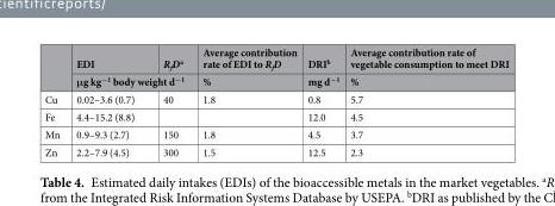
<table><thead><tr><td rowspan="2"></td><td>EDI</td><td>R<sub>f</sub>D<sup>a</sup></td><td rowspan="2">Average contribution rate of EDI to R<sub>f</sub>D %</td><td rowspan="2">DRI<sup>b</sup> mg d<sup>−1</sup></td><td rowspan="2">Average contribution rate of vegetable consumption to meet DRI %</td></tr><tr><td colspan="2">μg kg<sup>−1</sup> body weight d<sup>−1</sup></td></tr></thead><tbody><tr><td>Cu</td><td>0.02–3.6 (0.7)</td><td>40</td><td>1.8</td><td>0.8</td><td>5.7</td></tr><tr><td>Fe</td><td>4.4–15.2 (8.8)</td><td></td><td></td><td>12.0</td><td>4.5</td></tr><tr><td>Mn</td><td>0.9–9.3 (2.7)</td><td>150</td><td>1.8</td><td>4.5</td><td>3.7</td></tr><tr><td>Zn</td><td>2.2–7.9 (4.5)</td><td>300</td><td>1.5</td><td>12.5</td><td>2.3</td></tr></tbody></table>